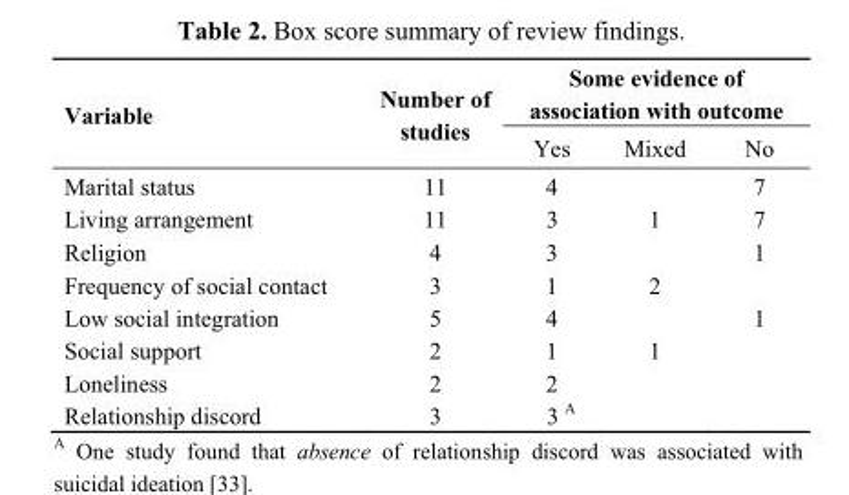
<table><thead><tr><td rowspan="2">Variable</td><td rowspan="2">Number of studies</td><td colspan="3">Some evidence of association with outcome</td></tr><tr><td>Yes</td><td>Mixed</td><td>No</td></tr></thead><tbody><tr><td>Marital status</td><td>11</td><td>4</td><td></td><td>7</td></tr><tr><td>Living arrangement</td><td>11</td><td>3</td><td>1</td><td>7</td></tr><tr><td>Religion</td><td>4</td><td>3</td><td></td><td>1</td></tr><tr><td>Frequency of social contact</td><td>3</td><td>1</td><td>2</td><td></td></tr><tr><td>Low social integration</td><td>5</td><td>4</td><td></td><td>1</td></tr><tr><td>Social support</td><td>2</td><td>1</td><td>1</td><td></td></tr><tr><td>Loneliness</td><td>2</td><td>2</td><td></td><td></td></tr><tr><td>Relationship discord</td><td>3</td><td>3 <sup>A</sup></td><td></td><td></td></tr></tbody></table>